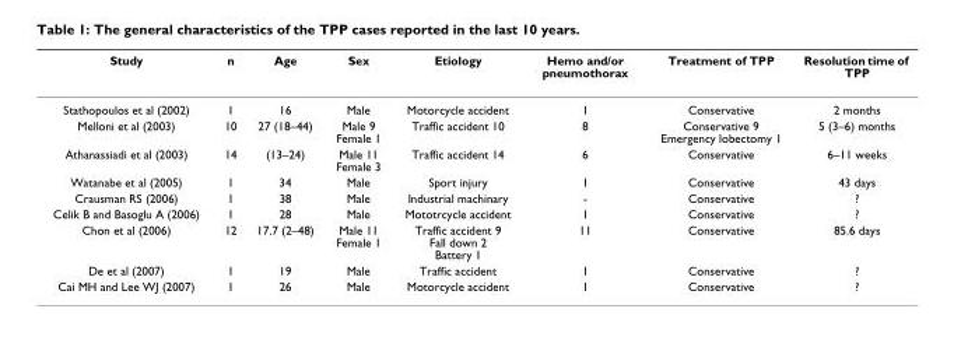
<table><thead><tr><td>Study</td><td>n</td><td>Age</td><td>Sex</td><td>Etiology</td><td>Hemo and/or pneumothorax</td><td>Treatment of TPP</td><td>Resolution time of TPP</td></tr></thead><tbody><tr><td>Stathopoulos et al (2002)</td><td>1</td><td>16</td><td>Male</td><td>Motorcycle accident</td><td>1</td><td>Conservative</td><td>2 months</td></tr><tr><td>Melloni et al (2003)</td><td>10</td><td>27 (18–44)</td><td>Male 9 Female 1</td><td>Traffic accident 10</td><td>8</td><td>Conservative 9 Emergency lobectomy 1</td><td>5 (3–6) months</td></tr><tr><td>Athanassiadi et al (2003)</td><td>14</td><td>(13–24)</td><td>Male 11 Female 3</td><td>Traffic accident 14</td><td>6</td><td>Conservative</td><td>6–11 weeks</td></tr><tr><td>Watanabe et al (2005)</td><td>1</td><td>34</td><td>Male</td><td>Sport injury</td><td>1</td><td>Conservative</td><td>43 days</td></tr><tr><td>Crausman RS (2006)</td><td>1</td><td>38</td><td>Male</td><td>Industrial machinary</td><td>-</td><td>Conservative</td><td>?</td></tr><tr><td>Celik B and Basoglu A (2006)</td><td>1</td><td>28</td><td>Male</td><td>Mototrcycle accident</td><td>1</td><td>Conservative</td><td>?</td></tr><tr><td>Chon et al (2006)</td><td>12</td><td>17.7 (2–48)</td><td>Male 11 Female 1</td><td>Traffic accident 9 Fall down 2 Battery 1</td><td>11</td><td>Conservative</td><td>85.6 days</td></tr><tr><td>De et al (2007)</td><td>1</td><td>19</td><td>Male</td><td>Traffic accident</td><td>1</td><td>Conservative</td><td>?</td></tr><tr><td>Cai MH and Lee WJ (2007)</td><td>1</td><td>26</td><td>Male</td><td>Motorcycle accident</td><td>1</td><td>Conservative</td><td>?</td></tr></tbody></table>